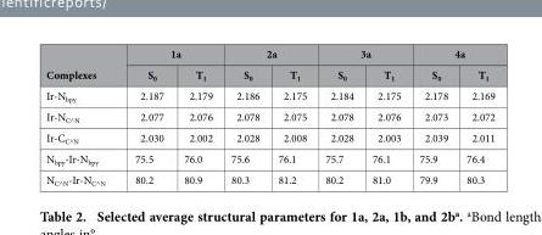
<table><thead><tr><td rowspan="2">Complexes</td><td colspan="2">1a</td><td colspan="2">2a</td><td colspan="2">3a</td><td colspan="2">4a</td></tr><tr><td>S<sub>0</sub></td><td>T<sub>1</sub></td><td>S<sub>0</sub></td><td>T<sub>1</sub></td><td>S<sub>0</sub></td><td>T<sub>1</sub></td><td>S<sub>0</sub></td><td>T<sub>1</sub></td></tr></thead><tbody><tr><td>Ir-N<sub>bpy</sub></td><td>2.187</td><td>2.179</td><td>2.186</td><td>2.175</td><td>2.184</td><td>2.175</td><td>2.178</td><td>2.169</td></tr><tr><td>Ir-N<sub>C^N</sub></td><td>2.077</td><td>2.076</td><td>2.078</td><td>2.075</td><td>2.078</td><td>2.076</td><td>2.073</td><td>2.072</td></tr><tr><td>Ir-C<sub>C^N</sub></td><td>2.030</td><td>2.002</td><td>2.028</td><td>2.008</td><td>2.028</td><td>2.003</td><td>2.039</td><td>2.011</td></tr><tr><td>N<sub>bpy</sub>-Ir-N<sub>bpy</sub></td><td>75.5</td><td>76.0</td><td>75.6</td><td>76.1</td><td>75.7</td><td>76.1</td><td>75.9</td><td>76.4</td></tr><tr><td>N<sub>C^N</sub>-Ir-N<sub>C^N</sub></td><td>80.2</td><td>80.9</td><td>80.3</td><td>81.2</td><td>80.2</td><td>81.0</td><td>79.9</td><td>80.3</td></tr></tbody></table>